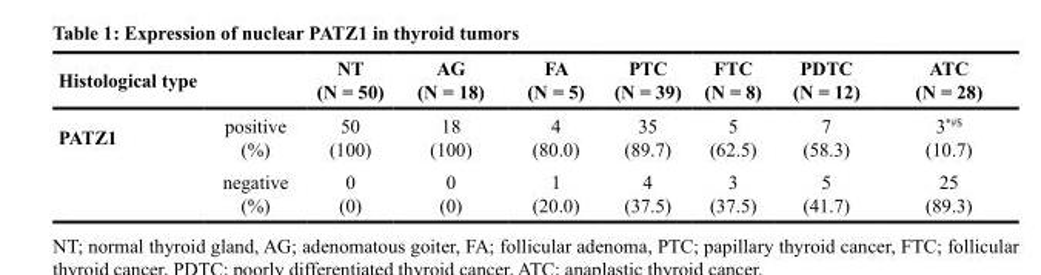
<table><thead><tr><td>Histological type</td><td></td><td>NT (N = 50)</td><td>AG (N = 18)</td><td>FA (N = 5)</td><td>PTC (N = 39)</td><td>FTC (N = 8)</td><td>PDTC (N = 12)</td><td>ATC (N = 28)</td></tr></thead><tbody><tr><td rowspan="2">PATZ1</td><td>positive (%)</td><td>50 (100)</td><td>18 (100)</td><td>4 (80.0)</td><td>35 (89.7)</td><td>5 (62.5)</td><td>7 (58.3)</td><td>3<sup>*#$</sup> (10.7)</td></tr><tr><td>negative (%)</td><td>0 (0)</td><td>0 (0)</td><td>1 (20.0)</td><td>4 (37.5)</td><td>3 (37.5)</td><td>5 (41.7)</td><td>25 (89.3)</td></tr></tbody></table>